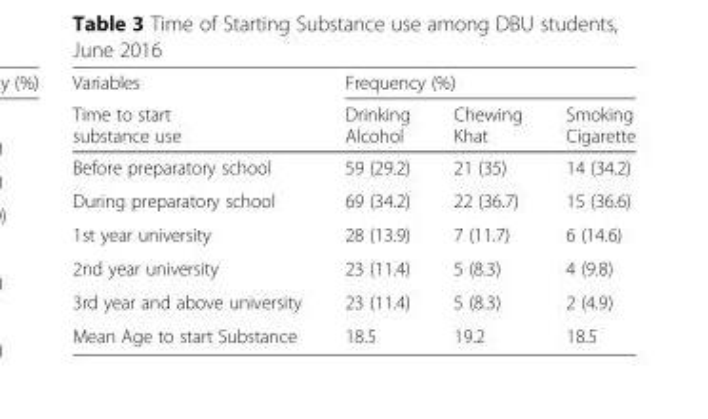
<table><thead><tr><td rowspan="2">Variables Time to start substance use</td><td colspan="3">Frequency (%)</td></tr><tr><td>Drinking Alcohol</td><td>Chewing Khat</td><td>Smoking Cigarette</td></tr></thead><tbody><tr><td>Before preparatory school</td><td>59 (29.2)</td><td>21 (35)</td><td>14 (34.2)</td></tr><tr><td>During preparatory school</td><td>69 (34.2)</td><td>22 (36.7)</td><td>15 (36.6)</td></tr><tr><td>1st year university</td><td>28 (13.9)</td><td>7 (11.7)</td><td>6 (14.6)</td></tr><tr><td>2nd year university</td><td>23 (11.4)</td><td>5 (8.3)</td><td>4 (9.8)</td></tr><tr><td>3rd year and above university</td><td>23 (11.4)</td><td>5 (8.3)</td><td>2 (4.9)</td></tr><tr><td>Mean Age to start Substance</td><td>18.5</td><td>19.2</td><td>18.5</td></tr></tbody></table>